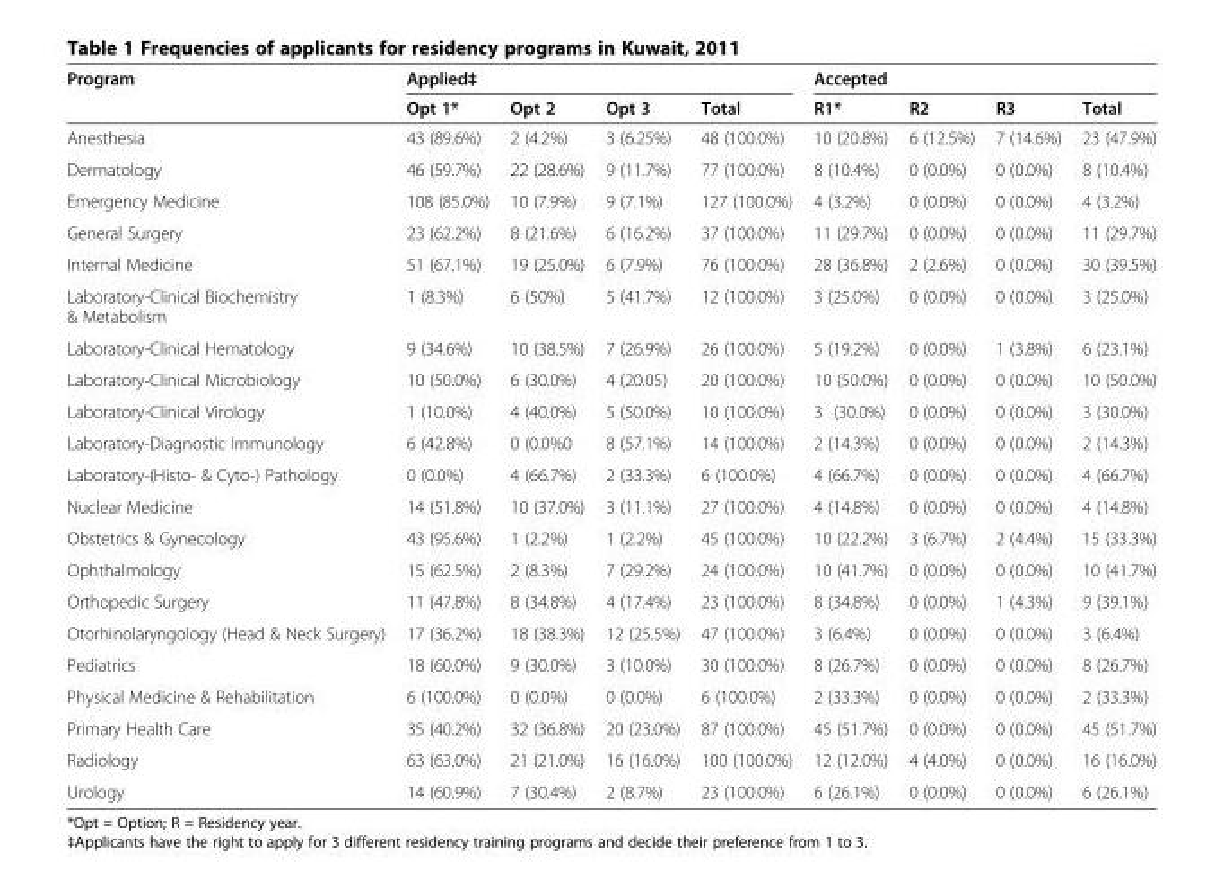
<table><thead><tr><td rowspan="2">Program</td><td colspan="4">Applied‡</td><td colspan="4">Accepted</td></tr><tr><td>Opt 1*</td><td>Opt 2</td><td>Opt 3</td><td>Total</td><td>R1*</td><td>R2</td><td>R3</td><td>Total</td></tr></thead><tbody><tr><td>Anesthesia</td><td>43 (89.6%)</td><td>2 (4.2%)</td><td>3 (6.25%)</td><td>48 (100.0%)</td><td>10 (20.8%)</td><td>6 (12.5%)</td><td>7 (14.6%)</td><td>23 (47.9%)</td></tr><tr><td>Dermatology</td><td>46 (59.7%)</td><td>22 (28.6%)</td><td>9 (11.7%)</td><td>77 (100.0%)</td><td>8 (10.4%)</td><td>0 (0.0%)</td><td>0 (0.0%)</td><td>8 (10.4%)</td></tr><tr><td>Emergency Medicine</td><td>108 (85.0%)</td><td>10 (7.9%)</td><td>9 (7.1%)</td><td>127 (100.0%)</td><td>4 (3.2%)</td><td>0 (0.0%)</td><td>0 (0.0%)</td><td>4 (3.2%)</td></tr><tr><td>General Surgery</td><td>23 (62.2%)</td><td>8 (21.6%)</td><td>6 (16.2%)</td><td>37 (100.0%)</td><td>11 (29.7%)</td><td>0 (0.0%)</td><td>0 (0.0%)</td><td>11 (29.7%)</td></tr><tr><td>Internal Medicine</td><td>51 (67.1%)</td><td>19 (25.0%)</td><td>6 (7.9%)</td><td>76 (100.0%)</td><td>28 (36.8%)</td><td>2 (2.6%)</td><td>0 (0.0%)</td><td>30 (39.5%)</td></tr><tr><td>Laboratory-Clinical Biochemistry &amp; Metabolism</td><td>1 (8.3%)</td><td>6 (50%)</td><td>5 (41.7%)</td><td>12 (100.0%)</td><td>3 (25.0%)</td><td>0 (0.0%)</td><td>0 (0.0%)</td><td>3 (25.0%)</td></tr><tr><td>Laboratory-Clinical Hematology</td><td>9 (34.6%)</td><td>10 (38.5%)</td><td>7 (26.9%)</td><td>26 (100.0%)</td><td>5 (19.2%)</td><td>0 (0.0%)</td><td>1 (3.8%)</td><td>6 (23.1%)</td></tr><tr><td>Laboratory-Clinical Microbiology</td><td>10 (50.0%)</td><td>6 (30.0%)</td><td>4 (20.05)</td><td>20 (100.0%)</td><td>10 (50.0%)</td><td>0 (0.0%)</td><td>0 (0.0%)</td><td>10 (50.0%)</td></tr><tr><td>Laboratory-Clinical Virology</td><td>1 (10.0%)</td><td>4 (40.0%)</td><td>5 (50.0%)</td><td>10 (100.0%)</td><td>3 (30.0%)</td><td>0 (0.0%)</td><td>0 (0.0%)</td><td>3 (30.0%)</td></tr><tr><td>Laboratory-Diagnostic Immunology</td><td>6 (42.8%)</td><td>0 (0.0%0</td><td>8 (57.1%)</td><td>14 (100.0%)</td><td>2 (14.3%)</td><td>0 (0.0%)</td><td>0 (0.0%)</td><td>2 (14.3%)</td></tr><tr><td>Laboratory-(Histo- &amp; Cyto-) Pathology</td><td>0 (0.0%)</td><td>4 (66.7%)</td><td>2 (33.3%)</td><td>6 (100.0%)</td><td>4 (66.7%)</td><td>0 (0.0%)</td><td>0 (0.0%)</td><td>4 (66.7%)</td></tr><tr><td>Nuclear Medicine</td><td>14 (51.8%)</td><td>10 (37.0%)</td><td>3 (11.1%)</td><td>27 (100.0%)</td><td>4 (14.8%)</td><td>0 (0.0%)</td><td>0 (0.0%)</td><td>4 (14.8%)</td></tr><tr><td>Obstetrics &amp; Gynecology</td><td>43 (95.6%)</td><td>1 (2.2%)</td><td>1 (2.2%)</td><td>45 (100.0%)</td><td>10 (22.2%)</td><td>3 (6.7%)</td><td>2 (4.4%)</td><td>15 (33.3%)</td></tr><tr><td>Ophthalmology</td><td>15 (62.5%)</td><td>2 (8.3%)</td><td>7 (29.2%)</td><td>24 (100.0%)</td><td>10 (41.7%)</td><td>0 (0.0%)</td><td>0 (0.0%)</td><td>10 (41.7%)</td></tr><tr><td>Orthopedic Surgery</td><td>11 (47.8%)</td><td>8 (34.8%)</td><td>4 (17.4%)</td><td>23 (100.0%)</td><td>8 (34.8%)</td><td>0 (0.0%)</td><td>1 (4.3%)</td><td>9 (39.1%)</td></tr><tr><td>Otorhinolaryngology (Head &amp; Neck Surgery)</td><td>17 (36.2%)</td><td>18 (38.3%)</td><td>12 (25.5%)</td><td>47 (100.0%)</td><td>3 (6.4%)</td><td>0 (0.0%)</td><td>0 (0.0%)</td><td>3 (6.4%)</td></tr><tr><td>Pediatrics</td><td>18 (60.0%)</td><td>9 (30.0%)</td><td>3 (10.0%)</td><td>30 (100.0%)</td><td>8 (26.7%)</td><td>0 (0.0%)</td><td>0 (0.0%)</td><td>8 (26.7%)</td></tr><tr><td>Physical Medicine &amp; Rehabilitation</td><td>6 (100.0%)</td><td>0 (0.0%)</td><td>0 (0.0%)</td><td>6 (100.0%)</td><td>2 (33.3%)</td><td>0 (0.0%)</td><td>0 (0.0%)</td><td>2 (33.3%)</td></tr><tr><td>Primary Health Care</td><td>35 (40.2%)</td><td>32 (36.8%)</td><td>20 (23.0%)</td><td>87 (100.0%)</td><td>45 (51.7%)</td><td>0 (0.0%)</td><td>0 (0.0%)</td><td>45 (51.7%)</td></tr><tr><td>Radiology</td><td>63 (63.0%)</td><td>21 (21.0%)</td><td>16 (16.0%)</td><td>100 (100.0%)</td><td>12 (12.0%)</td><td>4 (4.0%)</td><td>0 (0.0%)</td><td>16 (16.0%)</td></tr><tr><td>Urology</td><td>14 (60.9%)</td><td>7 (30.4%)</td><td>2 (8.7%)</td><td>23 (100.0%)</td><td>6 (26.1%)</td><td>0 (0.0%)</td><td>0 (0.0%)</td><td>6 (26.1%)</td></tr></tbody></table>